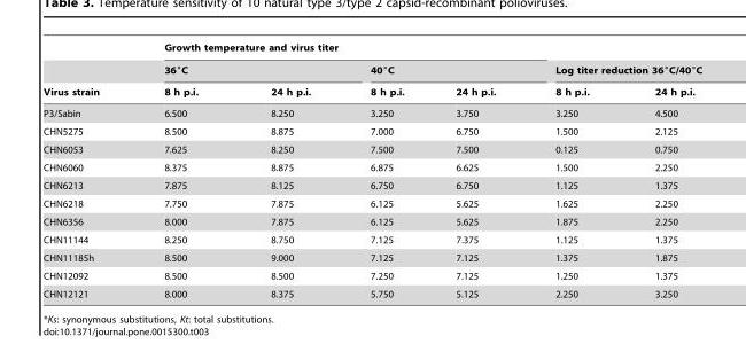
<table><thead><tr><td rowspan="3">Virus strain</td><td colspan="4">Growth temperature and virus titer</td><td></td><td></td></tr><tr><td colspan="2">36°C</td><td colspan="2">40°C</td><td colspan="2">Log titer reduction 36°C/40°C</td></tr><tr><td>8 h p.i.</td><td>24 h p.i.</td><td>8 h p.i.</td><td>24 h p.i.</td><td>8 h p.i.</td><td>24 h p.i.</td></tr></thead><tbody><tr><td>P3/Sabin</td><td>6.500</td><td>8.250</td><td>3.250</td><td>3.750</td><td>3.250</td><td>4.500</td></tr><tr><td>CHN5275</td><td>8.500</td><td>8.875</td><td>7.000</td><td>6.750</td><td>1.500</td><td>2.125</td></tr><tr><td>CHN6053</td><td>7.625</td><td>8.250</td><td>7.500</td><td>7.500</td><td>0.125</td><td>0.750</td></tr><tr><td>CHN6060</td><td>8.375</td><td>8.875</td><td>6.875</td><td>6.625</td><td>1.500</td><td>2.250</td></tr><tr><td>CHN6213</td><td>7.875</td><td>8.125</td><td>6.750</td><td>6.750</td><td>1.125</td><td>1.375</td></tr><tr><td>CHN6218</td><td>7.750</td><td>7.875</td><td>6.125</td><td>5.625</td><td>1.625</td><td>2.250</td></tr><tr><td>CHN6356</td><td>8.000</td><td>7.875</td><td>6.125</td><td>5.625</td><td>1.875</td><td>2.250</td></tr><tr><td>CHN11144</td><td>8.250</td><td>8.750</td><td>7.125</td><td>7.375</td><td>1.125</td><td>1.375</td></tr><tr><td>CHN11185h</td><td>8.500</td><td>9.000</td><td>7.125</td><td>7.125</td><td>1.375</td><td>1.875</td></tr><tr><td>CHN12092</td><td>8.500</td><td>8.500</td><td>7.250</td><td>7.125</td><td>1.250</td><td>1.375</td></tr><tr><td>CHN12121</td><td>8.000</td><td>8.375</td><td>5.750</td><td>5.125</td><td>2.250</td><td>3.250</td></tr></tbody></table>